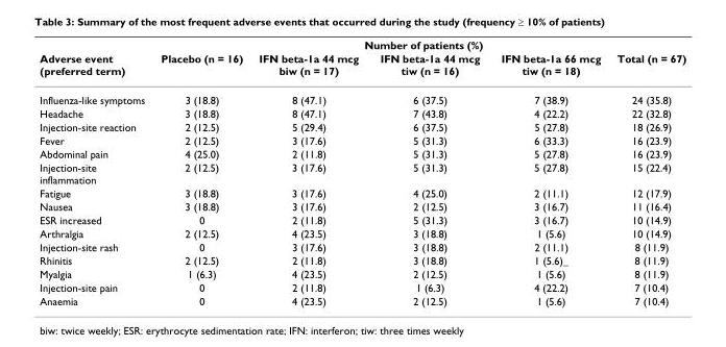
<table><thead><tr><td rowspan="2">Adverse event (preferred term)</td><td colspan="5">Number of patients (%)</td></tr><tr><td>Placebo (n = 16)</td><td>IFN beta-1a 44 mcg biw (n = 17)</td><td>IFN beta-1a 44 mcg tiw (n = 16)</td><td>IFN beta-1a 66 mcg tiw (n = 18)</td><td>Total (n = 67)</td></tr></thead><tbody><tr><td>Influenza-like symptoms</td><td>3 (18.8)</td><td>8 (47.1)</td><td>6 (37.5)</td><td>7 (38.9)</td><td>24 (35.8)</td></tr><tr><td>Headache</td><td>3 (18.8)</td><td>8 (47.1)</td><td>7 (43.8)</td><td>4 (22.2)</td><td>22 (32.8)</td></tr><tr><td>Injection-site reaction</td><td>2 (12.5)</td><td>5 (29.4)</td><td>6 (37.5)</td><td>5 (27.8)</td><td>18 (26.9)</td></tr><tr><td>Fever</td><td>2 (12.5)</td><td>3 (17.6)</td><td>5 (31.3)</td><td>6 (33.3)</td><td>16 (23.9)</td></tr><tr><td>Abdominal pain</td><td>4 (25.0)</td><td>2 (11.8)</td><td>5 (31.3)</td><td>5 (27.8)</td><td>16 (23.9)</td></tr><tr><td>Injection-site inflammation</td><td>2 (12.5)</td><td>3 (17.6)</td><td>5 (31.3)</td><td>5 (27.8)</td><td>15 (22.4)</td></tr><tr><td>Fatigue</td><td>3 (18.8)</td><td>3 (17.6)</td><td>4 (25.0)</td><td>2 (11.1)</td><td>12 (17.9)</td></tr><tr><td>Nausea</td><td>3 (18.8)</td><td>3 (17.6)</td><td>2 (12.5)</td><td>3 (16.7)</td><td>11 (16.4)</td></tr><tr><td>ESR increased</td><td>0</td><td>2 (11.8)</td><td>5 (31.3)</td><td>3 (16.7)</td><td>10 (14.9)</td></tr><tr><td>Arthralgia</td><td>2 (12.5)</td><td>4 (23.5)</td><td>3 (18.8)</td><td>1 (5.6)</td><td>10 (14.9)</td></tr><tr><td>Injection-site rash</td><td>0</td><td>3 (17.6)</td><td>3 (18.8)</td><td>2 (11.1)</td><td>8 (11.9)</td></tr><tr><td>Rhinitis</td><td>2 (12.5)</td><td>2 (11.8)</td><td>3 (18.8)</td><td>1 (5.6)_</td><td>8 (11.9)</td></tr><tr><td>Myalgia</td><td>1 (6.3)</td><td>4 (23.5)</td><td>2 (12.5)</td><td>1 (5.6)</td><td>8 (11.9)</td></tr><tr><td>Injection-site pain</td><td>0</td><td>2 (11.8)</td><td>1 (6.3)</td><td>4 (22.2)</td><td>7 (10.4)</td></tr><tr><td>Anaemia</td><td>0</td><td>4 (23.5)</td><td>2 (12.5)</td><td>1 (5.6)</td><td>7 (10.4)</td></tr></tbody></table>